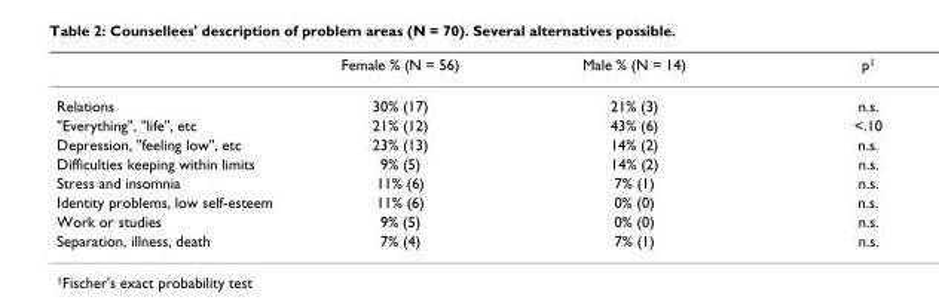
<table><thead><tr><td></td><td>Female % (N = 56)</td><td>Male % (N = 14)</td><td>p<sup>1</sup></td></tr></thead><tbody><tr><td>Relations</td><td>30% (17)</td><td>21% (3)</td><td>n.s.</td></tr><tr><td>&quot;Everything&quot;, &quot;life&quot;, etc</td><td>21% (12)</td><td>43% (6)</td><td>&lt;.10</td></tr><tr><td>Depression, &quot;feeling low&quot;, etc</td><td>23% (13)</td><td>14% (2)</td><td>n.s.</td></tr><tr><td>Difficulties keeping within limits</td><td>9% (5)</td><td>14% (2)</td><td>n.s.</td></tr><tr><td>Stress and insomnia</td><td>11% (6)</td><td>7% (1)</td><td>n.s.</td></tr><tr><td>Identity problems, low self-esteem</td><td>11% (6)</td><td>0% (0)</td><td>n.s.</td></tr><tr><td>Work or studies</td><td>9% (5)</td><td>0% (0)</td><td>n.s.</td></tr><tr><td>Separation, illness, death</td><td>7% (4)</td><td>7% (1)</td><td>n.s.</td></tr></tbody></table>